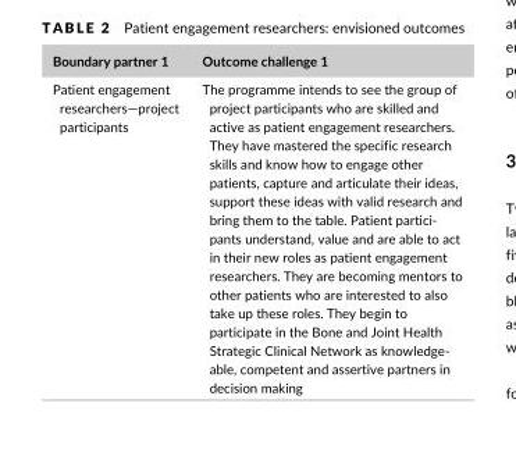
<table><thead><tr><td>Boundary partner 1</td><td>Outcome challenge 1</td></tr></thead><tbody><tr><td>Patient engagement researchers—project participants</td><td>The programme intends to see the group of project participants who are skilled and active as patient engagement researchers. They have mastered the specific research skills and know how to engage other patients, capture and articulate their ideas, support these ideas with valid research and bring them to the table. Patient partici- pants understand, value and are able to act in their new roles as patient engagement researchers. They are becoming mentors to other patients who are interested to also take up these roles. They begin to participate in the Bone and Joint Health Strategic Clinical Network as knowledge- able, competent and assertive partners in decision making</td></tr></tbody></table>